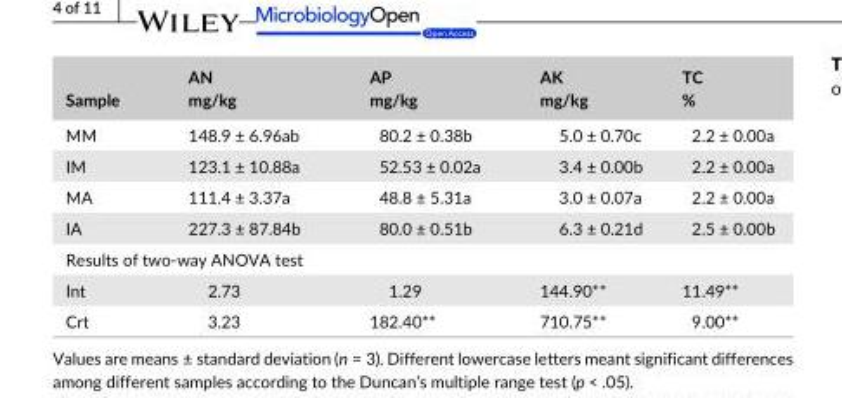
<table><thead><tr><td>Sample</td><td>AN mg/kg</td><td>AP mg/kg</td><td>AK mg/kg</td><td>TC %</td></tr></thead><tbody><tr><td>MM</td><td>148.9 ± 6.96ab</td><td>80.2 ± 0.38b</td><td>5.0 ± 0.70c</td><td>2.2 ± 0.00a</td></tr><tr><td>IM</td><td>123.1 ± 10.88a</td><td>52.53 ± 0.02a</td><td>3.4 ± 0.00b</td><td>2.2 ± 0.00a</td></tr><tr><td>MA</td><td>111.4 ± 3.37a</td><td>48.8 ± 5.31a</td><td>3.0 ± 0.07a</td><td>2.2 ± 0.00a</td></tr><tr><td>IA</td><td>227.3 ± 87.84b</td><td>80.0 ± 0.51b</td><td>6.3 ± 0.21d</td><td>2.5 ± 0.00b</td></tr><tr><td colspan="5">Results of two- way ANOVA test</td></tr><tr><td>Int</td><td>2.73</td><td>1.29</td><td>144.90**</td><td>11.49**</td></tr><tr><td>Crt</td><td>3.23</td><td>182.40**</td><td>710.75**</td><td>9.00**</td></tr></tbody></table>